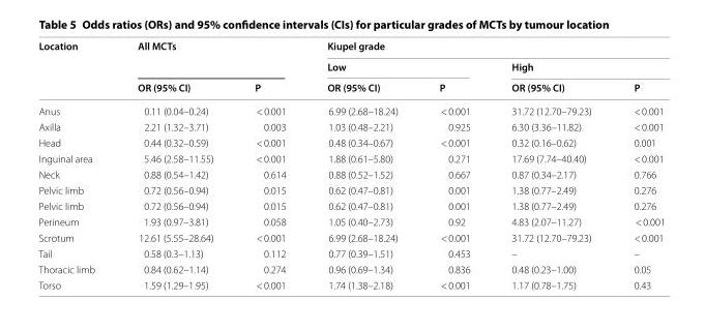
<table><thead><tr><td rowspan="3">Location</td><td rowspan="2" colspan="2">All MCTs</td><td colspan="4">Kiupel grade</td></tr><tr><td colspan="2">Low</td><td colspan="2">High</td></tr><tr><td>OR (95% CI)</td><td>P</td><td>OR (95% CI)</td><td>P</td><td>OR (95% CI)</td><td>P</td></tr></thead><tbody><tr><td>Anus</td><td>0.11 (0.04–0.24)</td><td>&lt; 0.001</td><td>6.99 (2.68–18.24)</td><td>&lt; 0.001</td><td>31.72 (12.70–79.23)</td><td>&lt; 0.001</td></tr><tr><td>Axilla</td><td>2.21 (1.32–3.71)</td><td>0.003</td><td>1.03 (0.48–2.21)</td><td>0.925</td><td>6.30 (3.36–11.82)</td><td>&lt; 0.001</td></tr><tr><td>Head</td><td>0.44 (0.32–0.59)</td><td>&lt; 0.001</td><td>0.48 (0.34–0.67)</td><td>&lt; 0.001</td><td>0.32 (0.16–0.62)</td><td>0.001</td></tr><tr><td>Inguinal area</td><td>5.46 (2.58–11.55)</td><td>&lt; 0.001</td><td>1.88 (0.61–5.80)</td><td>0.271</td><td>17.69 (7.74–40.40)</td><td>&lt; 0.001</td></tr><tr><td>Neck</td><td>0.88 (0.54–1.42)</td><td>0.614</td><td>0.88 (0.52–1.52)</td><td>0.667</td><td>0.87 (0.34–2.17)</td><td>0.766</td></tr><tr><td>Pelvic limb</td><td>0.72 (0.56–0.94)</td><td>0.015</td><td>0.62 (0.47–0.81)</td><td>0.001</td><td>1.38 (0.77–2.49)</td><td>0.276</td></tr><tr><td>Pelvic limb</td><td>0.72 (0.56–0.94)</td><td>0.015</td><td>0.62 (0.47–0.81)</td><td>0.001</td><td>1.38 (0.77–2.49)</td><td>0.276</td></tr><tr><td>Perineum</td><td>1.93 (0.97–3.81)</td><td>0.058</td><td>1.05 (0.40–2.73)</td><td>0.92</td><td>4.83 (2.07–11.27)</td><td>&lt; 0.001</td></tr><tr><td>Scrotum</td><td>12.61 (5.55–28.64)</td><td>&lt; 0.001</td><td>6.99 (2.68–18.24)</td><td>&lt; 0.001</td><td>31.72 (12.70–79.23)</td><td>&lt; 0.001</td></tr><tr><td>Tail</td><td>0.58 (0.3–1.13)</td><td>0.112</td><td>0.77 (0.39–1.51)</td><td>0.453</td><td>–</td><td>–</td></tr><tr><td>Thoracic limb</td><td>0.84 (0.62–1.14)</td><td>0.274</td><td>0.96 (0.69–1.34)</td><td>0.836</td><td>0.48 (0.23–1.00)</td><td>0.05</td></tr><tr><td>Torso</td><td>1.59 (1.29–1.95)</td><td>&lt; 0.001</td><td>1.74 (1.38–2.18)</td><td>&lt; 0.001</td><td>1.17 (0.78–1.75)</td><td>0.43</td></tr></tbody></table>